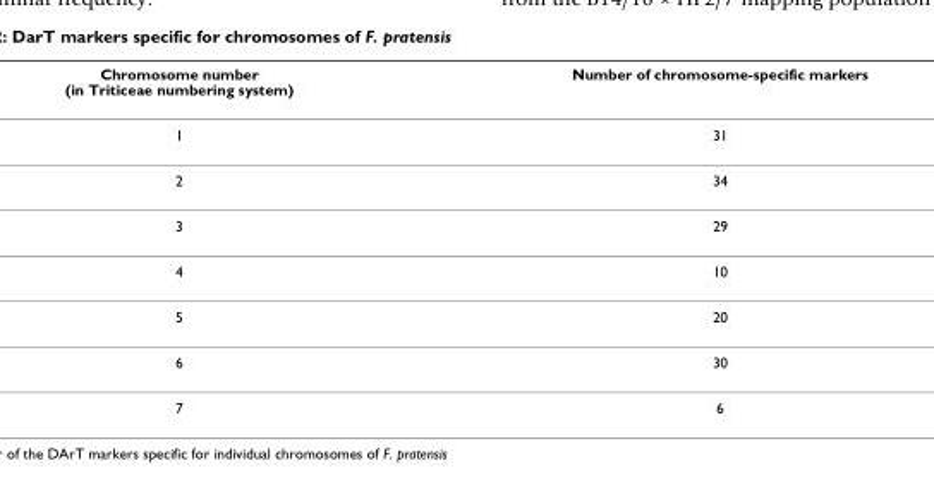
<table><thead><tr><td>Chromosome number (in Triticeae numbering system)</td><td>Number of chromosome-specific markers</td></tr></thead><tbody><tr><td>1</td><td>31</td></tr><tr><td>2</td><td>34</td></tr><tr><td>3</td><td>29</td></tr><tr><td>4</td><td>10</td></tr><tr><td>5</td><td>20</td></tr><tr><td>6</td><td>30</td></tr><tr><td>7</td><td>6</td></tr></tbody></table>